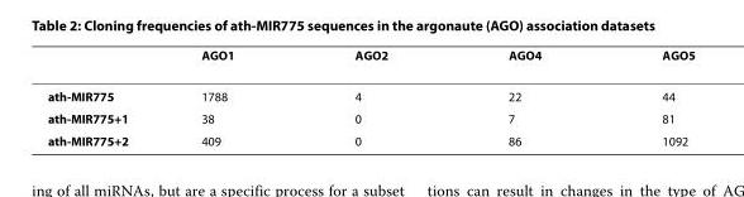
<table><thead><tr><td></td><td>AGO1</td><td>AGO2</td><td>AGO4</td><td>AGO5</td></tr></thead><tbody><tr><td>ath-MIR775</td><td>1788</td><td>4</td><td>22</td><td>44</td></tr><tr><td>ath-MIR775+1</td><td>38</td><td>0</td><td>7</td><td>81</td></tr><tr><td>ath-MIR775+2</td><td>409</td><td>0</td><td>86</td><td>1092</td></tr></tbody></table>